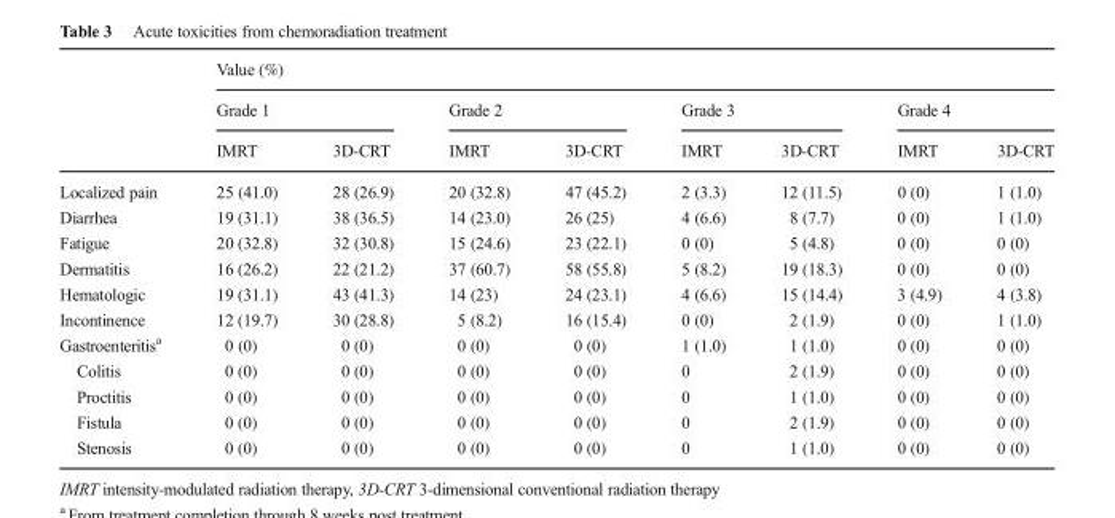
<table><thead><tr><td rowspan="3"></td><td colspan="8">Value (%)</td></tr><tr><td colspan="2">Grade 1</td><td colspan="2">Grade 2</td><td colspan="2">Grade 3</td><td colspan="2">Grade 4</td></tr><tr><td>IMRT</td><td>3D-CRT</td><td>IMRT</td><td>3D-CRT</td><td>IMRT</td><td>3D-CRT</td><td>IMRT</td><td>3D-CRT</td></tr></thead><tbody><tr><td>Localized pain</td><td>25 (41.0)</td><td>28 (26.9)</td><td>20 (32.8)</td><td>47 (45.2)</td><td>2 (3.3)</td><td>12 (11.5)</td><td>0 (0)</td><td>1 (1.0)</td></tr><tr><td>Diarrhea</td><td>19 (31.1)</td><td>38 (36.5)</td><td>14 (23.0)</td><td>26 (25)</td><td>4 (6.6)</td><td>8 (7.7)</td><td>0 (0)</td><td>1 (1.0)</td></tr><tr><td>Fatigue</td><td>20 (32.8)</td><td>32 (30.8)</td><td>15 (24.6)</td><td>23 (22.1)</td><td>0 (0)</td><td>5 (4.8)</td><td>0 (0)</td><td>0 (0)</td></tr><tr><td>Dermatitis</td><td>16 (26.2)</td><td>22 (21.2)</td><td>37 (60.7)</td><td>58 (55.8)</td><td>5 (8.2)</td><td>19 (18.3)</td><td>0 (0)</td><td>0 (0)</td></tr><tr><td>Hematologic</td><td>19 (31.1)</td><td>43 (41.3)</td><td>14 (23)</td><td>24 (23.1)</td><td>4 (6.6)</td><td>15 (14.4)</td><td>3 (4.9)</td><td>4 (3.8)</td></tr><tr><td>Incontinence</td><td>12 (19.7)</td><td>30 (28.8)</td><td>5 (8.2)</td><td>16 (15.4)</td><td>0 (0)</td><td>2 (1.9)</td><td>0 (0)</td><td>1 (1.0)</td></tr><tr><td>Gastroenteritis<sup>a</sup></td><td>0 (0)</td><td>0 (0)</td><td>0 (0)</td><td>0 (0)</td><td>1 (1.0)</td><td>1 (1.0)</td><td>0 (0)</td><td>0 (0)</td></tr><tr><td>Colitis</td><td>0 (0)</td><td>0 (0)</td><td>0 (0)</td><td>0 (0)</td><td>0</td><td>2 (1.9)</td><td>0 (0)</td><td>0 (0)</td></tr><tr><td>Proctitis</td><td>0 (0)</td><td>0 (0)</td><td>0 (0)</td><td>0 (0)</td><td>0</td><td>1 (1.0)</td><td>0 (0)</td><td>0 (0)</td></tr><tr><td>Fistula</td><td>0 (0)</td><td>0 (0)</td><td>0 (0)</td><td>0 (0)</td><td>0</td><td>2 (1.9)</td><td>0 (0)</td><td>0 (0)</td></tr><tr><td>Stenosis</td><td>0 (0)</td><td>0 (0)</td><td>0 (0)</td><td>0 (0)</td><td>0</td><td>1 (1.0)</td><td>0 (0)</td><td>0 (0)</td></tr></tbody></table>